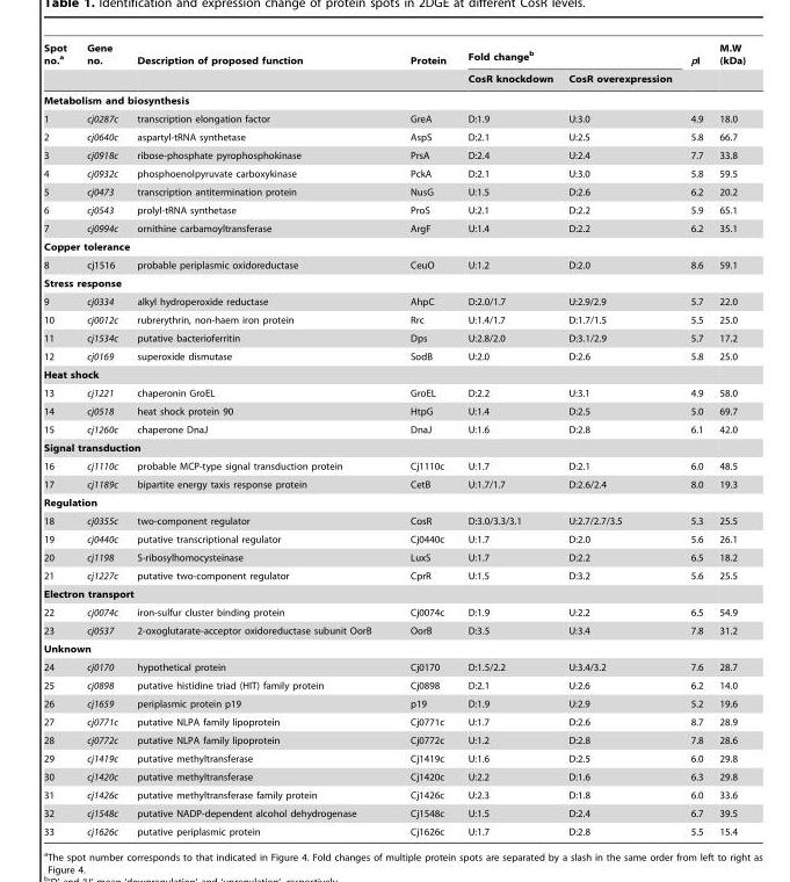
<table><thead><tr><td rowspan="2">Spot no.<sup>a</sup></td><td rowspan="2">Gene no.</td><td rowspan="2">Description of proposed function</td><td rowspan="2">Protein</td><td colspan="2">Fold change<sup>b</sup></td><td rowspan="2">pI</td><td rowspan="2">M.W (kDa)</td></tr><tr><td>CosR knockdown</td><td>CosR overexpression</td></tr></thead><tbody><tr><td colspan="8">Metabolism and biosynthesis</td></tr><tr><td>1</td><td>cj0287c</td><td>transcription elongation factor</td><td>GreA</td><td>D:1.9</td><td>U:3.0</td><td>4.9</td><td>18.0</td></tr><tr><td>2</td><td>cj0640c</td><td>aspartyl-tRNA synthetase</td><td>AspS</td><td>D:2.1</td><td>U:2.5</td><td>5.8</td><td>66.7</td></tr><tr><td>3</td><td>cj0918c</td><td>ribose-phosphate pyrophosphokinase</td><td>PrsA</td><td>D:2.4</td><td>U:2.4</td><td>7.7</td><td>33.8</td></tr><tr><td>4</td><td>cj0932c</td><td>phosphoenolpyruvate carboxykinase</td><td>PckA</td><td>D:2.1</td><td>U:3.0</td><td>5.8</td><td>59.5</td></tr><tr><td>5</td><td>cj0473</td><td>transcription antitermination protein</td><td>NusG</td><td>U:1.5</td><td>D:2.6</td><td>6.2</td><td>20.2</td></tr><tr><td>6</td><td>cj0543</td><td>prolyl-tRNA synthetase</td><td>ProS</td><td>U:2.1</td><td>D:2.2</td><td>5.9</td><td>65.1</td></tr><tr><td>7</td><td>cj0994c</td><td>ornithine carbamoyltransferase</td><td>ArgF</td><td>U:1.4</td><td>D:2.2</td><td>6.2</td><td>35.1</td></tr><tr><td colspan="8">Copper tolerance</td></tr><tr><td>8</td><td>cj1516</td><td>probable periplasmic oxidoreductase</td><td>CeuO</td><td>U:1.2</td><td>D:2.0</td><td>8.6</td><td>59.1</td></tr><tr><td colspan="8">Stress response</td></tr><tr><td>9</td><td>cj0334</td><td>alkyl hydroperoxide reductase</td><td>AhpC</td><td>D:2.0/1.7</td><td>U:2.9/2.9</td><td>5.7</td><td>22.0</td></tr><tr><td>10</td><td>cj0012c</td><td>rubrerythrin, non-haem iron protein</td><td>Rrc</td><td>U:1.4/1.7</td><td>D:1.7/1.5</td><td>5.5</td><td>25.0</td></tr><tr><td>11</td><td>cj1534c</td><td>putative bacterioferritin</td><td>Dps</td><td>U:2.8/2.0</td><td>D:3.1/2.9</td><td>5.7</td><td>17.2</td></tr><tr><td>12</td><td>cj0169</td><td>superoxide dismutase</td><td>SodB</td><td>U:2.0</td><td>D:2.6</td><td>5.8</td><td>25.0</td></tr><tr><td colspan="8">Heat shock</td></tr><tr><td>13</td><td>cj1221</td><td>chaperonin GroEL</td><td>GroEL</td><td>D:2.2</td><td>U:3.1</td><td>4.9</td><td>58.0</td></tr><tr><td>14</td><td>cj0518</td><td>heat shock protein 90</td><td>HtpG</td><td>U:1.4</td><td>D:2.5</td><td>5.0</td><td>69.7</td></tr><tr><td>15</td><td>cj1260c</td><td>chaperone DnaJ</td><td>DnaJ</td><td>U:1.6</td><td>D:2.8</td><td>6.1</td><td>42.0</td></tr><tr><td colspan="8">Signal transduction</td></tr><tr><td>16</td><td>cj1110c</td><td>probable MCP-type signal transduction protein</td><td>Cj1110c</td><td>U:1.7</td><td>D:2.1</td><td>6.0</td><td>48.5</td></tr><tr><td>17</td><td>cj1189c</td><td>bipartite energy taxis response protein</td><td>CetB</td><td>U:1.7/1.7</td><td>D:2.6/2.4</td><td>8.0</td><td>19.3</td></tr><tr><td colspan="8">Regulation</td></tr><tr><td>18</td><td>cj0355c</td><td>two-component regulator</td><td>CosR</td><td>D:3.0/3.3/3.1</td><td>U:2.7/2.7/3.5</td><td>5.3</td><td>25.5</td></tr><tr><td>19</td><td>cj0440c</td><td>putative transcriptional regulator</td><td>Cj0440c</td><td>U:1.7</td><td>D:2.0</td><td>5.6</td><td>26.1</td></tr><tr><td>20</td><td>cj1198</td><td>S-ribosylhomocysteinase</td><td>LuxS</td><td>U:1.7</td><td>D:2.2</td><td>6.5</td><td>18.2</td></tr><tr><td>21</td><td>cj1227c</td><td>putative two-component regulator</td><td>CprR</td><td>U:1.5</td><td>D:3.2</td><td>5.6</td><td>25.5</td></tr><tr><td colspan="8">Electron transport</td></tr><tr><td>22</td><td>cj0074c</td><td>iron-sulfur cluster binding protein</td><td>Cj0074c</td><td>D:1.9</td><td>U:2.2</td><td>6.5</td><td>54.9</td></tr><tr><td>23</td><td>cj0537</td><td>2-oxoglutarate-acceptor oxidoreductase subunit OorB</td><td>OorB</td><td>D:3.5</td><td>U:3.4</td><td>7.8</td><td>31.2</td></tr><tr><td colspan="8">Unknown</td></tr><tr><td>24</td><td>cj0170</td><td>hypothetical protein</td><td>Cj0170</td><td>D:1.5/2.2</td><td>U:3.4/3.2</td><td>7.6</td><td>28.7</td></tr><tr><td>25</td><td>cj0898</td><td>putative histidine triad (HIT) family protein</td><td>Cj0898</td><td>D:2.1</td><td>U:2.6</td><td>6.2</td><td>14.0</td></tr><tr><td>26</td><td>cj1659</td><td>periplasmic protein p19</td><td>p19</td><td>D:1.9</td><td>U:2.9</td><td>5.2</td><td>19.6</td></tr><tr><td>27</td><td>cj0771c</td><td>putative NLPA family lipoprotein</td><td>Cj0771c</td><td>U:1.7</td><td>D:2.6</td><td>8.7</td><td>28.9</td></tr><tr><td>28</td><td>cj0772c</td><td>putative NLPA family lipoprotein</td><td>Cj0772c</td><td>U:1.2</td><td>D:2.8</td><td>7.8</td><td>28.6</td></tr><tr><td>29</td><td>cj1419c</td><td>putative methyltransferase</td><td>Cj1419c</td><td>U:1.6</td><td>D:2.5</td><td>6.0</td><td>29.8</td></tr><tr><td>30</td><td>cj1420c</td><td>putative methyltransferase</td><td>Cj1420c</td><td>U:2.2</td><td>D:1.6</td><td>6.3</td><td>29.8</td></tr><tr><td>31</td><td>cj1426c</td><td>putative methyltransferase family protein</td><td>Cj1426c</td><td>U:2.3</td><td>D:1.8</td><td>6.0</td><td>33.6</td></tr><tr><td>32</td><td>cj1548c</td><td>putative NADP-dependent alcohol dehydrogenase</td><td>Cj1548c</td><td>U:1.5</td><td>D:2.4</td><td>6.7</td><td>39.5</td></tr><tr><td>33</td><td>cj1626c</td><td>putative periplasmic protein</td><td>Cj1626c</td><td>U:1.7</td><td>D:2.8</td><td>5.5</td><td>15.4</td></tr></tbody></table>